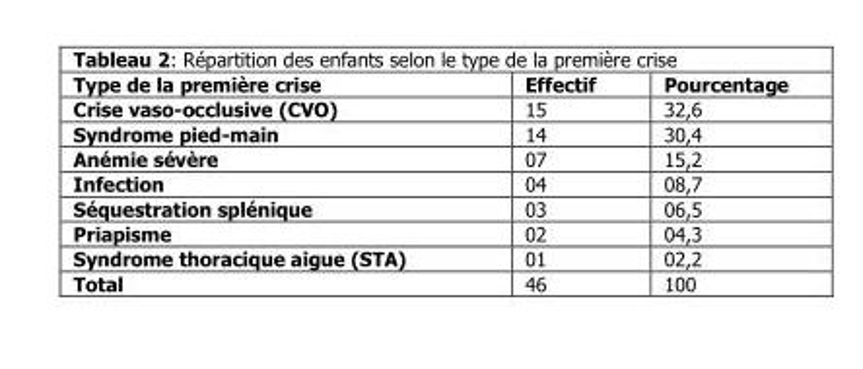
<table><thead><tr><td>Type de la première crise</td><td>Effectif</td><td>Pourcentage</td></tr></thead><tbody><tr><td>Crise vaso-occlusive (CVO)</td><td>15</td><td>32,6</td></tr><tr><td>Syndrome pied-main</td><td>14</td><td>30,4</td></tr><tr><td>Anémie sévère</td><td>07</td><td>15,2</td></tr><tr><td>Infection</td><td>04</td><td>08,7</td></tr><tr><td>Séquestration splénique</td><td>03</td><td>06,5</td></tr><tr><td>Priapisme</td><td>02</td><td>04,3</td></tr><tr><td>Syndrome thoracique aigue (STA)</td><td>01</td><td>02,2</td></tr><tr><td>Total</td><td>46</td><td>100</td></tr></tbody></table>